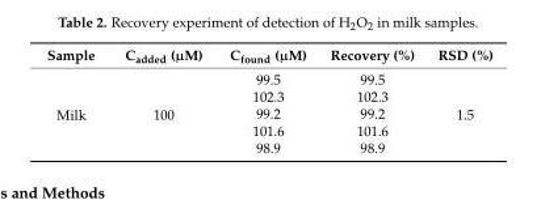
<table><thead><tr><td>Sample</td><td>Cadded (µM)</td><td>Cfound (µM)</td><td>Recovery (%)</td><td>RSD (%)</td></tr></thead><tbody><tr><td rowspan="5">Milk</td><td rowspan="5">100</td><td>99.5</td><td>99.5</td><td rowspan="5">1.5</td></tr><tr><td>102.3</td><td>102.3</td></tr><tr><td>99.2</td><td>99.2</td></tr><tr><td>101.6</td><td>101.6</td></tr><tr><td>98.9</td><td>98.9</td></tr></tbody></table>